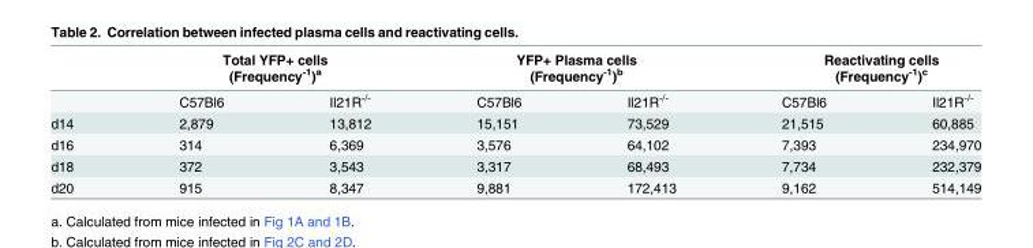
<table><thead><tr><td rowspan="2"></td><td colspan="2">Total YFP+ cells (Frequency<sup>-1</sup>)<sup>a</sup></td><td colspan="2">YFP+ Plasma cells (Frequency<sup>-1</sup>)<sup>b</sup></td><td colspan="2">Reactivating cells (Frequency<sup>-1</sup>)<sup>c</sup></td></tr><tr><td>C57Bl6</td><td>Il21R<sup>-/-</sup></td><td>C57Bl6</td><td>Il21R<sup>-/-</sup></td><td>C57Bl6</td><td>Il21R<sup>-/-</sup></td></tr></thead><tbody><tr><td>d14</td><td>2,879</td><td>13,812</td><td>15,151</td><td>73,529</td><td>21,515</td><td>60,885</td></tr><tr><td>d16</td><td>314</td><td>6,369</td><td>3,576</td><td>64,102</td><td>7,393</td><td>234,970</td></tr><tr><td>d18</td><td>372</td><td>3,543</td><td>3,317</td><td>68,493</td><td>7,734</td><td>232,379</td></tr><tr><td>d20</td><td>915</td><td>8,347</td><td>9,881</td><td>172,413</td><td>9,162</td><td>514,149</td></tr></tbody></table>